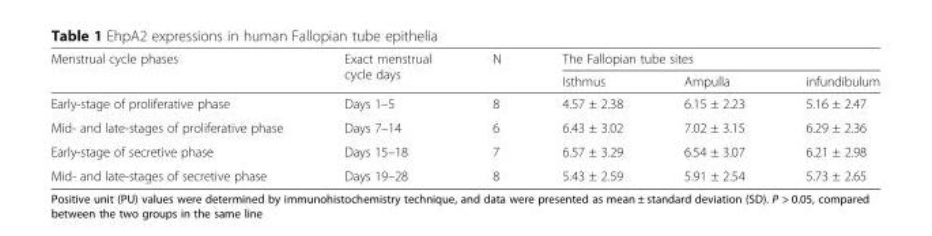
<table><thead><tr><td rowspan="2">Menstrual cycle phases</td><td rowspan="2">Exact menstrual cycle days</td><td rowspan="2">N</td><td colspan="3">The Fallopian tube sites</td></tr><tr><td>Isthmus</td><td>Ampulla</td><td>infundibulum</td></tr></thead><tbody><tr><td>Early-stage of proliferative phase</td><td>Days 1–5</td><td>8</td><td>4.57 ± 2.38</td><td>6.15 ± 2.23</td><td>5.16 ± 2.47</td></tr><tr><td>Mid- and late-stages of proliferative phase</td><td>Days 7–14</td><td>6</td><td>6.43 ± 3.02</td><td>7.02 ± 3.15</td><td>6.29 ± 2.36</td></tr><tr><td>Early-stage of secretive phase</td><td>Days 15–18</td><td>7</td><td>6.57 ± 3.29</td><td>6.54 ± 3.07</td><td>6.21 ± 2.98</td></tr><tr><td>Mid- and late-stages of secretive phase</td><td>Days 19–28</td><td>8</td><td>5.43 ± 2.59</td><td>5.91 ± 2.54</td><td>5.73 ± 2.65</td></tr></tbody></table>